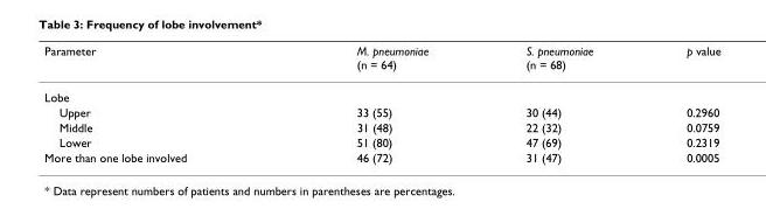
<table><thead><tr><td>Parameter</td><td>M. pneumoniae (n = 64)</td><td>S. pneumoniae (n = 68)</td><td>p value</td></tr></thead><tbody><tr><td colspan="4">Lobe</td></tr><tr><td>Upper</td><td>33 (55)</td><td>30 (44)</td><td>0.2960</td></tr><tr><td>Middle</td><td>31 (48)</td><td>22 (32)</td><td>0.0759</td></tr><tr><td>Lower</td><td>51 (80)</td><td>47 (69)</td><td>0.2319</td></tr><tr><td>More than one lobe involved</td><td>46 (72)</td><td>31 (47)</td><td>0.0005</td></tr></tbody></table>